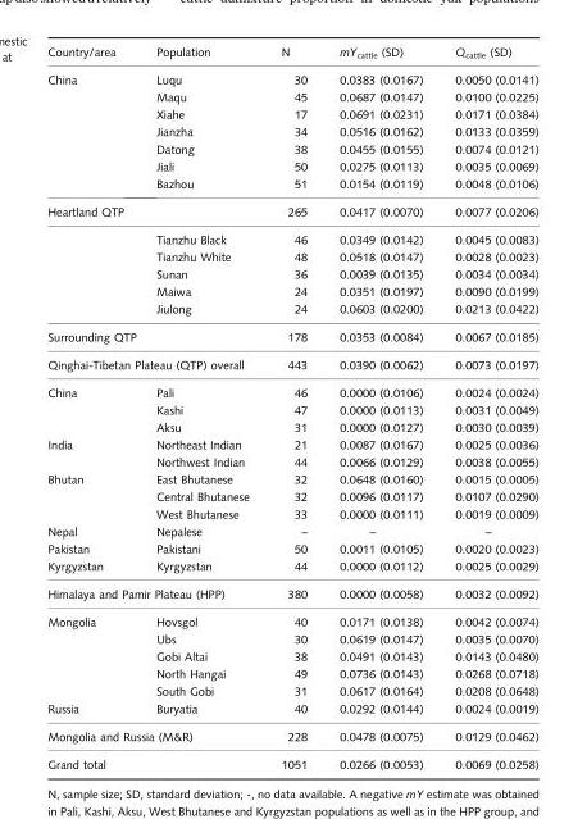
<table><thead><tr><td>Country/area</td><td>Population</td><td>N</td><td>mY<sub>cattle</sub> (SD)</td><td>Q<sub>cattle</sub> (SD)</td></tr></thead><tbody><tr><td rowspan="7">China</td><td>Luqu</td><td>30</td><td>0.0383 (0.0167)</td><td>0.0050 (0.0141)</td></tr><tr><td>Maqu</td><td>45</td><td>0.0687 (0.0147)</td><td>0.0100 (0.0225)</td></tr><tr><td>Xiahe</td><td>17</td><td>0.0691 (0.0231)</td><td>0.0171 (0.0384)</td></tr><tr><td>Jianzha</td><td>34</td><td>0.0516 (0.0162)</td><td>0.0133 (0.0359)</td></tr><tr><td>Datong</td><td>38</td><td>0.0455 (0.0155)</td><td>0.0074 (0.0121)</td></tr><tr><td>Jiali</td><td>50</td><td>0.0275 (0.0113)</td><td>0.0035 (0.0069)</td></tr><tr><td>Bazhou</td><td>51</td><td>0.0154 (0.0119)</td><td>0.0048 (0.0106)</td></tr><tr><td rowspan="6">Heartland QTP</td><td></td><td>265</td><td>0.0417 (0.0070)</td><td>0.0077 (0.0206)</td></tr><tr><td>Tianzhu Black</td><td>46</td><td>0.0349 (0.0142)</td><td>0.0045 (0.0083)</td></tr><tr><td>Tianzhu White</td><td>48</td><td>0.0518 (0.0147)</td><td>0.0028 (0.0023)</td></tr><tr><td>Sunan</td><td>36</td><td>0.0039 (0.0135)</td><td>0.0034 (0.0034)</td></tr><tr><td>Maiwa</td><td>24</td><td>0.0351 (0.0197)</td><td>0.0090 (0.0199)</td></tr><tr><td>Jiulong</td><td>24</td><td>0.0603 (0.0200)</td><td>0.0213 (0.0422)</td></tr><tr><td colspan="2">Surrounding QTP</td><td>178</td><td>0.0353 (0.0084)</td><td>0.0067 (0.0185)</td></tr><tr><td colspan="2">Qinghai-Tibetan Plateau (QTP) overall</td><td>443</td><td>0.0390 (0.0062)</td><td>0.0073 (0.0197)</td></tr><tr><td rowspan="3">China</td><td>Pali</td><td>46</td><td>0.0000 (0.0106)</td><td>0.0024 (0.0024)</td></tr><tr><td>Kashi</td><td>47</td><td>0.0000 (0.0113)</td><td>0.0031 (0.0049)</td></tr><tr><td>Aksu</td><td>31</td><td>0.0000 (0.0127)</td><td>0.0030 (0.0039)</td></tr><tr><td rowspan="2">India</td><td>Northeast Indian</td><td>21</td><td>0.0087 (0.0167)</td><td>0.0025 (0.0036)</td></tr><tr><td>Northwest Indian</td><td>44</td><td>0.0066 (0.0129)</td><td>0.0038 (0.0055)</td></tr><tr><td rowspan="3">Bhutan</td><td>East Bhutanese</td><td>32</td><td>0.0648 (0.0160)</td><td>0.0015 (0.0005)</td></tr><tr><td>Central Bhutanese</td><td>32</td><td>0.0096 (0.0117)</td><td>0.0107 (0.0290)</td></tr><tr><td>West Bhutanese</td><td>33</td><td>0.0000 (0.0111)</td><td>0.0019 (0.0009)</td></tr><tr><td>Nepal</td><td>Nepalese</td><td>–</td><td>–</td><td>–</td></tr><tr><td>Pakistan</td><td>Pakistani</td><td>50</td><td>0.0011 (0.0105)</td><td>0.0020 (0.0023)</td></tr><tr><td>Kyrgyzstan</td><td>Kyrgyzstan</td><td>44</td><td>0.0000 (0.0112)</td><td>0.0025 (0.0029)</td></tr><tr><td colspan="2">Himalaya and Pamir Plateau (HPP)</td><td>380</td><td>0.0000 (0.0058)</td><td>0.0032 (0.0092)</td></tr><tr><td rowspan="5">Mongolia</td><td>Hovsgol</td><td>40</td><td>0.0171 (0.0138)</td><td>0.0042 (0.0074)</td></tr><tr><td>Ubs</td><td>30</td><td>0.0619 (0.0147)</td><td>0.0035 (0.0070)</td></tr><tr><td>Gobi Altai</td><td>38</td><td>0.0491 (0.0143)</td><td>0.0143 (0.0480)</td></tr><tr><td>North Hangai</td><td>49</td><td>0.0736 (0.0143)</td><td>0.0268 (0.0718)</td></tr><tr><td>South Gobi</td><td>31</td><td>0.0617 (0.0164)</td><td>0.0208 (0.0648)</td></tr><tr><td>Russia</td><td>Buryatia</td><td>40</td><td>0.0292 (0.0144)</td><td>0.0024 (0.0019)</td></tr><tr><td colspan="2">Mongolia and Russia (M&amp;R)</td><td>228</td><td>0.0478 (0.0075)</td><td>0.0129 (0.0462)</td></tr><tr><td colspan="2">Grand total</td><td>1051</td><td>0.0266 (0.0053)</td><td>0.0069 (0.0258)</td></tr></tbody></table>